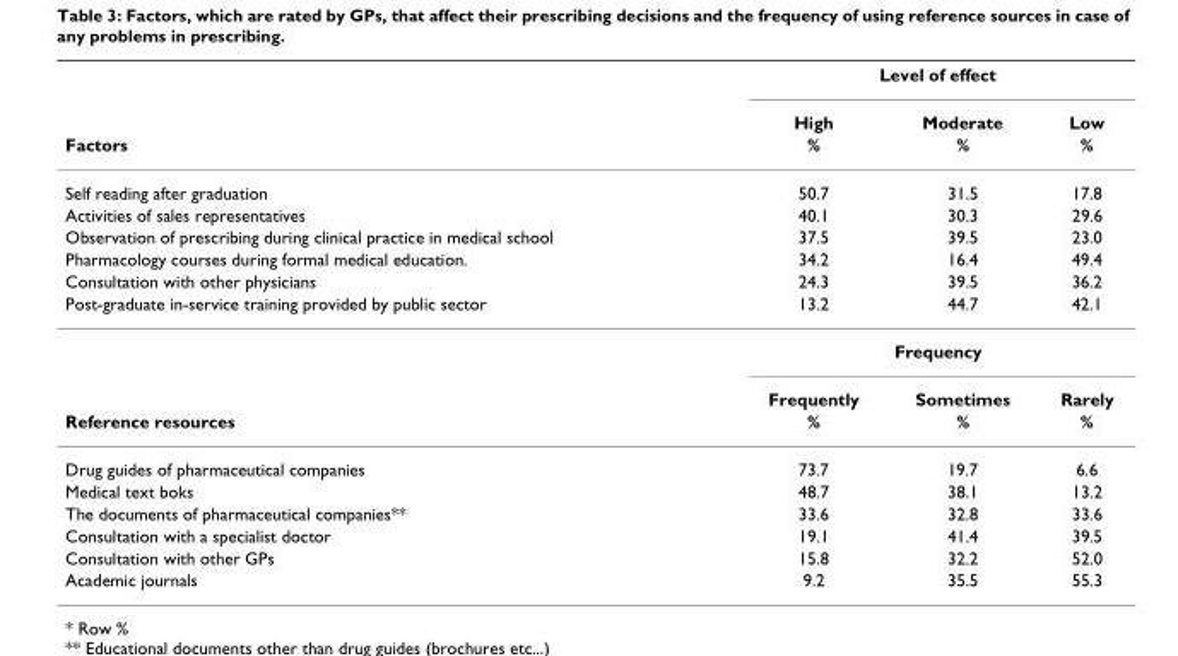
<table><thead><tr><td rowspan="3">Factors</td><td colspan="3">Level of effect</td></tr><tr><td rowspan="2">High %</td><td rowspan="2">Moderate %</td><td rowspan="2">Low %</td></tr><tr></tr></thead><tbody><tr><td>Self reading after graduation</td><td>50.7</td><td>31.5</td><td>17.8</td></tr><tr><td>Activities of sales representatives</td><td>40.1</td><td>30.3</td><td>29.6</td></tr><tr><td>Observation of prescribing during clinical practice in medical school</td><td>37.5</td><td>39.5</td><td>23.0</td></tr><tr><td>Pharmacology courses during formal medical education.</td><td>34.2</td><td>16.4</td><td>49.4</td></tr><tr><td>Consultation with other physicians</td><td>24.3</td><td>39.5</td><td>36.2</td></tr><tr><td rowspan="3">Post-graduate in-service training provided by public sector</td><td>13.2</td><td>44.7</td><td>42.1</td></tr><tr><td colspan="3">Frequency</td></tr><tr><td>Frequently</td><td>Sometimes</td><td>Rarely</td></tr><tr><td>Reference resources</td><td>%</td><td>%</td><td>%</td></tr><tr><td>Drug guides of pharmaceutical companies</td><td>73.7</td><td>19.7</td><td>6.6</td></tr><tr><td>Medical text boks</td><td>48.7</td><td>38.1</td><td>13.2</td></tr><tr><td>The documents of pharmaceutical companies**</td><td>33.6</td><td>32.8</td><td>33.6</td></tr><tr><td>Consultation with a specialist doctor</td><td>19.1</td><td>41.4</td><td>39.5</td></tr><tr><td>Consultation with other GPs</td><td>15.8</td><td>32.2</td><td>52.0</td></tr><tr><td>Academic journals</td><td>9.2</td><td>35.5</td><td>55.3</td></tr></tbody></table>